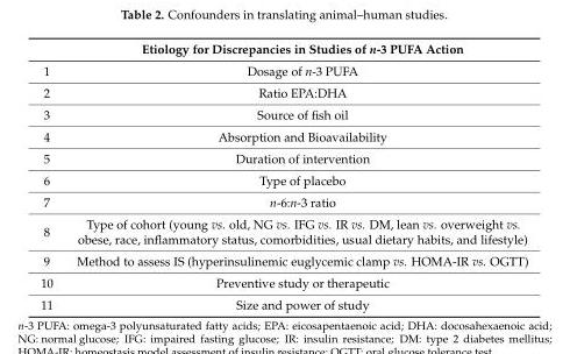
<table><thead><tr><td></td><td>Etiology for Discrepancies in Studies of n-3 PUFA Action</td></tr></thead><tbody><tr><td>1</td><td>Dosage of n-3 PUFA</td></tr><tr><td>2</td><td>Ratio EPA:DHA</td></tr><tr><td>3</td><td>Source of fish oil</td></tr><tr><td>4</td><td>Absorption and Bioavailability</td></tr><tr><td>5</td><td>Duration of intervention</td></tr><tr><td>6</td><td>Type of placebo</td></tr><tr><td>7</td><td>n-6:n-3 ratio</td></tr><tr><td>8</td><td>Type of cohort (young vs. old, NG vs. IFG vs. IR vs. DM, lean vs. overweight vs. obese, race, inflammatory status, comorbidities, usual dietary habits, and lifestyle)</td></tr><tr><td>9</td><td>Method to assess IS (hyperinsulinemic euglycemic clamp vs. HOMA-IR vs. OGTT)</td></tr><tr><td>10</td><td>Preventive study or therapeutic</td></tr><tr><td>11</td><td>Size and power of study</td></tr></tbody></table>